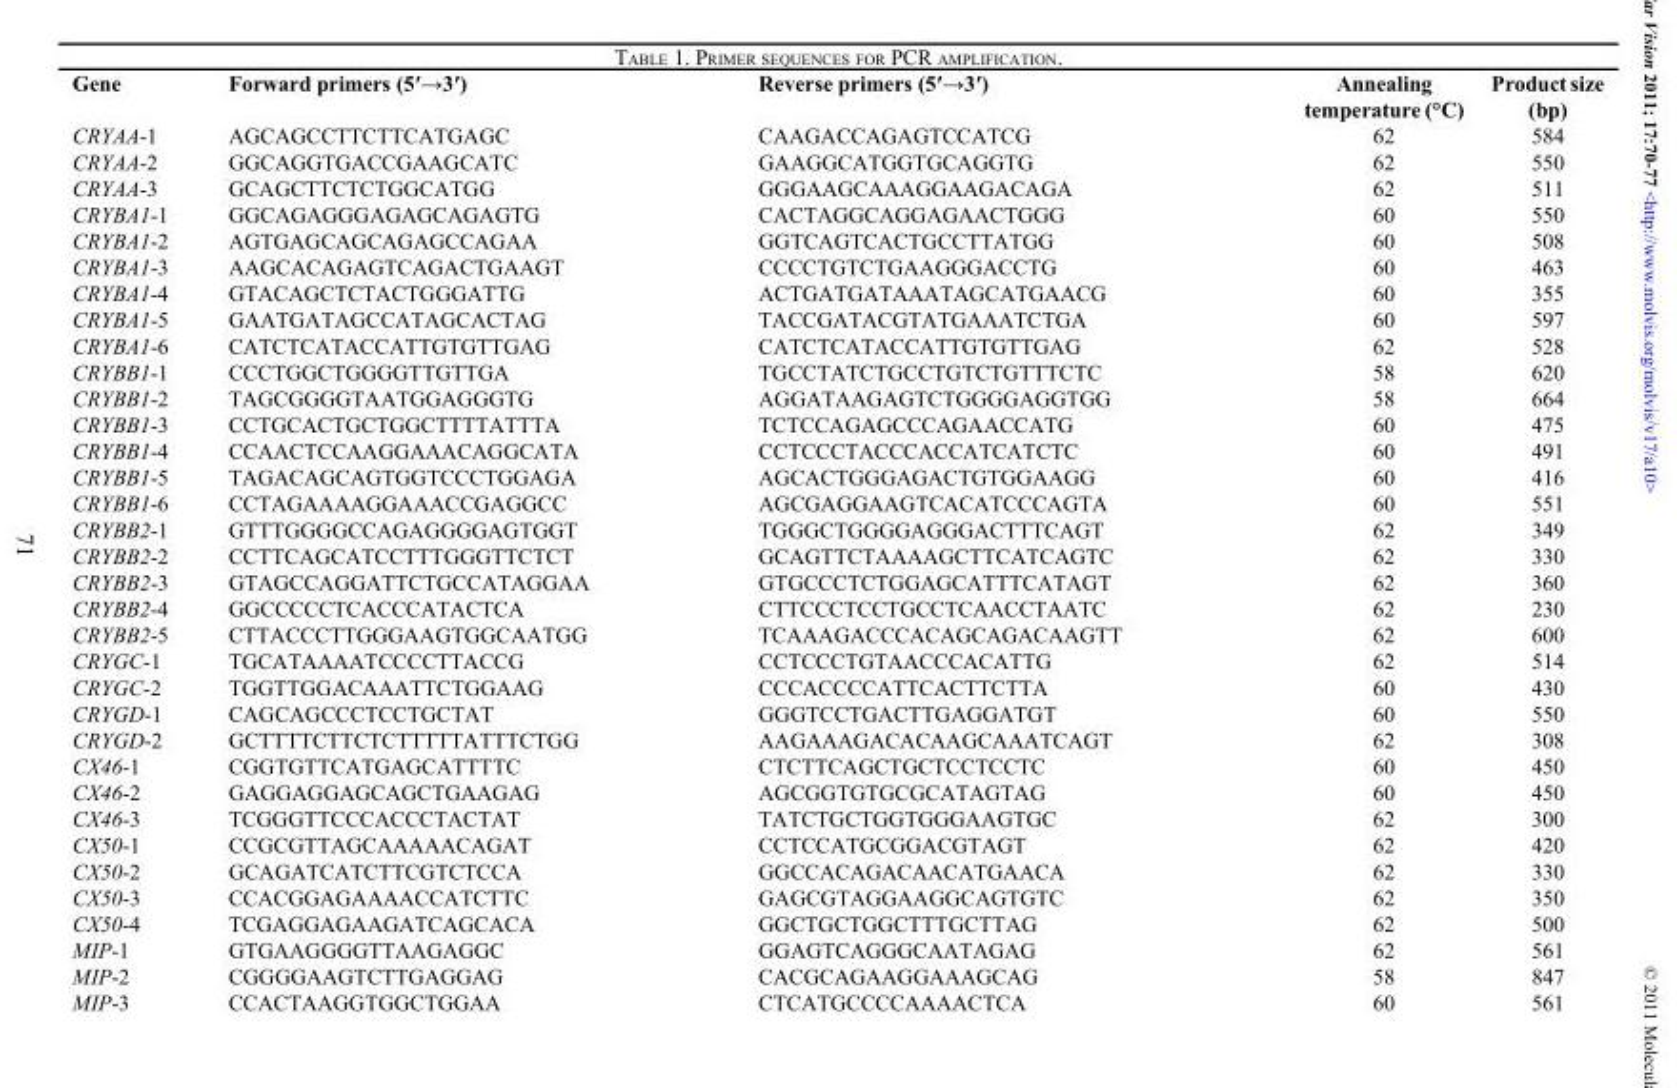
<table><thead><tr><td>Gene</td><td>Forward primers (5′→3′)</td><td>Reverse primers (5′→3′)</td><td>Annealing temperature (°C)</td><td>Product size (bp)</td></tr></thead><tbody><tr><td>CRYAA-1</td><td>AGCAGCCTTCTTCATGAGC</td><td>CAAGACCAGAGTCCATCG</td><td>62</td><td>584</td></tr><tr><td>CRYAA-2</td><td>GGCAGGTGACCGAAGCATC</td><td>GAAGGCATGGTGCAGGTG</td><td>62</td><td>550</td></tr><tr><td>CRYAA-3</td><td>GCAGCTTCTCTGGCATGG</td><td>GGGAAGCAAAGGAAGACAGA</td><td>62</td><td>511</td></tr><tr><td>CRYBA1-1</td><td>GGCAGAGGGAGAGCAGAGTG</td><td>CACTAGGCAGGAGAACTGGG</td><td>60</td><td>550</td></tr><tr><td>CRYBA1-2</td><td>AGTGAGCAGCAGAGCCAGAA</td><td>GGTCAGTCACTGCCTTATGG</td><td>60</td><td>508</td></tr><tr><td>CRYBA1-3</td><td>AAGCACAGAGTCAGACTGAAGT</td><td>CCCCTGTCTGAAGGGACCTG</td><td>60</td><td>463</td></tr><tr><td>CRYBA1-4</td><td>GTACAGCTCTACTGGGATTG</td><td>ACTGATGATAAATAGCATGAACG</td><td>60</td><td>355</td></tr><tr><td>CRYBA1-5</td><td>GAATGATAGCCATAGCACTAG</td><td>TACCGATACGTATGAAATCTGA</td><td>60</td><td>597</td></tr><tr><td>CRYBA1-6</td><td>CATCTCATACCATTGTGTTGAG</td><td>CATCTCATACCATTGTGTTGAG</td><td>62</td><td>528</td></tr><tr><td>CRYBB1-1</td><td>CCCTGGCTGGGGTTGTTGA</td><td>TGCCTATCTGCCTGTCTGTTTCTC</td><td>58</td><td>620</td></tr><tr><td>CRYBB1-2</td><td>TAGCGGGGTAATGGAGGGTG</td><td>AGGATAAGAGTCTGGGGAGGTGG</td><td>58</td><td>664</td></tr><tr><td>CRYBB1-3</td><td>CCTGCACTGCTGGCTTTTATTTA</td><td>TCTCCAGAGCCCAGAACCATG</td><td>60</td><td>475</td></tr><tr><td>CRYBB1-4</td><td>CCAACTCCAAGGAAACAGGCATA</td><td>CCTCCCTACCCACCATCATCTC</td><td>60</td><td>491</td></tr><tr><td>CRYBB1-5</td><td>TAGACAGCAGTGGTCCCTGGAGA</td><td>AGCACTGGGAGACTGTGGAAGG</td><td>60</td><td>416</td></tr><tr><td>CRYBB1-6</td><td>CCTAGAAAAGGAAACCGAGGCC</td><td>AGCGAGGAAGTCACATCCCAGTA</td><td>60</td><td>551</td></tr><tr><td>CRYBB2-1</td><td>GTTTGGGGCCAGAGGGGAGTGGT</td><td>TGGGCTGGGGAGGGACTTTCAGT</td><td>62</td><td>349</td></tr><tr><td>CRYBB2-2</td><td>CCTTCAGCATCCTTTGGGTTCTCT</td><td>GCAGTTCTAAAAGCTTCATCAGTC</td><td>62</td><td>330</td></tr><tr><td>CRYBB2-3</td><td>GTAGCCAGGATTCTGCCATAGGAA</td><td>GTGCCCTCTGGAGCATTTCATAGT</td><td>62</td><td>360</td></tr><tr><td>CRYBB2-4</td><td>GGCCCCCTCACCCATACTCA</td><td>CTTCCCTCCTGCCTCAACCTAATC</td><td>62</td><td>230</td></tr><tr><td>CRYBB2-5</td><td>CTTACCCTTGGGAAGTGGCAATGG</td><td>TCAAAGACCCACAGCAGACAAGTT</td><td>62</td><td>600</td></tr><tr><td>CRYGC-1</td><td>TGCATAAAATCCCCTTACCG</td><td>CCTCCCTGTAACCCACATTG</td><td>62</td><td>514</td></tr><tr><td>CRYGC-2</td><td>TGGTTGGACAAATTCTGGAAG</td><td>CCCACCCCATTCACTTCTTA</td><td>60</td><td>430</td></tr><tr><td>CRYGD-1</td><td>CAGCAGCCCTCCTGCTAT</td><td>GGGTCCTGACTTGAGGATGT</td><td>60</td><td>550</td></tr><tr><td>CRYGD-2</td><td>GCTTTTCTTCTCTTTTTATTTCTGG</td><td>AAGAAAGACACAAGCAAATCAGT</td><td>62</td><td>308</td></tr><tr><td>CX46-1</td><td>CGGTGTTCATGAGCATTTTC</td><td>CTCTTCAGCTGCTCCTCCTC</td><td>60</td><td>450</td></tr><tr><td>CX46-2</td><td>GAGGAGGAGCAGCTGAAGAG</td><td>AGCGGTGTGCGCATAGTAG</td><td>60</td><td>450</td></tr><tr><td>CX46-3</td><td>TCGGGTTCCCACCCTACTAT</td><td>TATCTGCTGGTGGGAAGTGC</td><td>62</td><td>300</td></tr><tr><td>CX50-1</td><td>CCGCGTTAGCAAAAACAGAT</td><td>CCTCCATGCGGACGTAGT</td><td>62</td><td>420</td></tr><tr><td>CX50-2</td><td>GCAGATCATCTTCGTCTCCA</td><td>GGCCACAGACAACATGAACA</td><td>62</td><td>330</td></tr><tr><td>CX50-3</td><td>CCACGGAGAAAACCATCTTC</td><td>GAGCGTAGGAAGGCAGTGTC</td><td>62</td><td>350</td></tr><tr><td>CX50-4</td><td>TCGAGGAGAAGATCAGCACA</td><td>GGCTGCTGGCTTTGCTTAG</td><td>62</td><td>500</td></tr><tr><td>MIP-1</td><td>GTGAAGGGGTTAAGAGGC</td><td>GGAGTCAGGGCAATAGAG</td><td>62</td><td>561</td></tr><tr><td>MIP-2</td><td>CGGGGAAGTCTTGAGGAG</td><td>CACGCAGAAGGAAAGCAG</td><td>58</td><td>847</td></tr><tr><td>MIP-3</td><td>CCACTAAGGTGGCTGGAA</td><td>CTCATGCCCCAAAACTCA</td><td>60</td><td>561</td></tr></tbody></table>